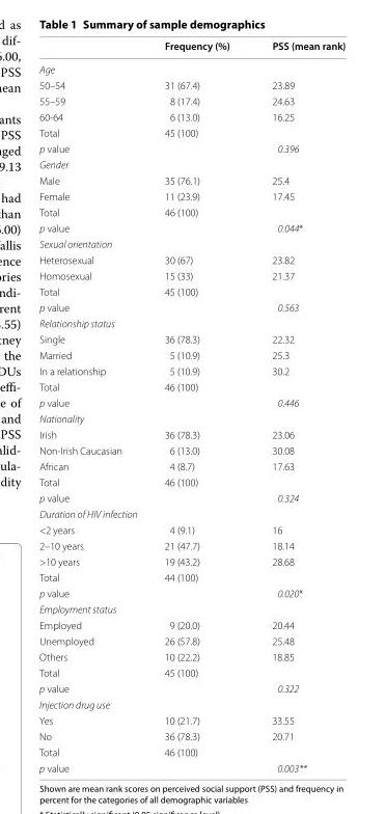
<table><thead><tr><td></td><td>Frequency (%)</td><td>PSS (mean rank)</td></tr></thead><tbody><tr><td colspan="3">Age</td></tr><tr><td>50–54</td><td>31 (67.4)</td><td>23.89</td></tr><tr><td>55–59</td><td>8 (17.4)</td><td>24.63</td></tr><tr><td>60-64</td><td>6 (13.0)</td><td>16.25</td></tr><tr><td>Total</td><td>45 (100)</td><td></td></tr><tr><td>p value</td><td></td><td>0.396</td></tr><tr><td colspan="3">Gender</td></tr><tr><td>Male</td><td>35 (76.1)</td><td>25.4</td></tr><tr><td>Female</td><td>11 (23.9)</td><td>17.45</td></tr><tr><td>Total</td><td>46 (100)</td><td></td></tr><tr><td>p value</td><td></td><td>0.044*</td></tr><tr><td colspan="3">Sexual orientation</td></tr><tr><td>Heterosexual</td><td>30 (67)</td><td>23.82</td></tr><tr><td>Homosexual</td><td>15 (33)</td><td>21.37</td></tr><tr><td>Total</td><td>45 (100)</td><td></td></tr><tr><td>p value</td><td></td><td>0.563</td></tr><tr><td colspan="3">Relationship status</td></tr><tr><td>Single</td><td>36 (78.3)</td><td>22.32</td></tr><tr><td>Married</td><td>5 (10.9)</td><td>25.3</td></tr><tr><td>In a relationship</td><td>5 (10.9)</td><td>30.2</td></tr><tr><td>Total</td><td>46 (100)</td><td></td></tr><tr><td>p value</td><td></td><td>0.446</td></tr><tr><td colspan="3">Nationality</td></tr><tr><td>Irish</td><td>36 (78.3)</td><td>23.06</td></tr><tr><td>Non-Irish Caucasian</td><td>6 (13.0)</td><td>30.08</td></tr><tr><td>African</td><td>4 (8.7)</td><td>17.63</td></tr><tr><td>Total</td><td>46 (100)</td><td></td></tr><tr><td>p value</td><td></td><td>0.324</td></tr><tr><td colspan="3">Duration of HIV infection</td></tr><tr><td>&lt;2 years</td><td>4 (9.1)</td><td>16</td></tr><tr><td>2–10 years</td><td>21 (47.7)</td><td>18.14</td></tr><tr><td>&gt;10 years</td><td>19 (43.2)</td><td>28.68</td></tr><tr><td>Total</td><td>44 (100)</td><td></td></tr><tr><td>p value</td><td></td><td>0.020*</td></tr><tr><td colspan="3">Employment status</td></tr><tr><td>Employed</td><td>9 (20.0)</td><td>20.44</td></tr><tr><td>Unemployed</td><td>26 (57.8)</td><td>25.48</td></tr><tr><td>Others</td><td>10 (22.2)</td><td>18.85</td></tr><tr><td>Total</td><td>45 (100)</td><td></td></tr><tr><td>p value</td><td></td><td>0.322</td></tr><tr><td colspan="3">Injection drug use</td></tr><tr><td>Yes</td><td>10 (21.7)</td><td>33.55</td></tr><tr><td>No</td><td>36 (78.3)</td><td>20.71</td></tr><tr><td>Total</td><td>46 (100)</td><td></td></tr><tr><td>p value</td><td></td><td>0.003**</td></tr></tbody></table>